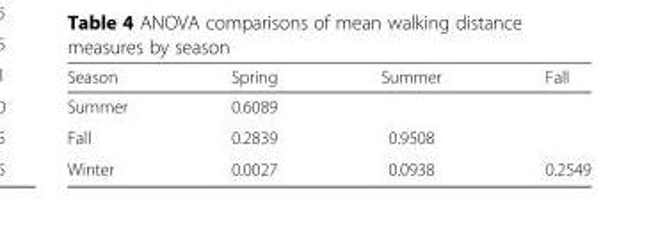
<table><thead><tr><td>Season</td><td>Spring</td><td>Summer</td><td>Fall</td></tr></thead><tbody><tr><td>Summer</td><td>0.6089</td><td></td><td></td></tr><tr><td>Fall</td><td>0.2839</td><td>0.9508</td><td></td></tr><tr><td>Winter</td><td>0.0027</td><td>0.0938</td><td>0.2549</td></tr></tbody></table>